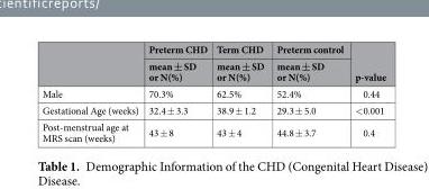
<table><thead><tr><td rowspan="2"></td><td rowspan="2">Preterm CHD mean ± SD or N(%)</td><td rowspan="2">Term CHD mean ± SD or N(%)</td><td rowspan="2">Preterm control mean ± SD or N(%)</td><td rowspan="2">p-value</td></tr><tr></tr></thead><tbody><tr><td>Male</td><td>70.3%</td><td>62.5%</td><td>52.4%</td><td>0.44</td></tr><tr><td>Gestational Age (weeks)</td><td>32.4 ± 3.3</td><td>38.9 ± 1.2</td><td>29.3 ± 5.0</td><td>&lt;0.001</td></tr><tr><td>Post-menstrual age at MRS scan (weeks)</td><td>43 ± 8</td><td>43 ± 4</td><td>44.8 ± 3.7</td><td>0.4</td></tr></tbody></table>